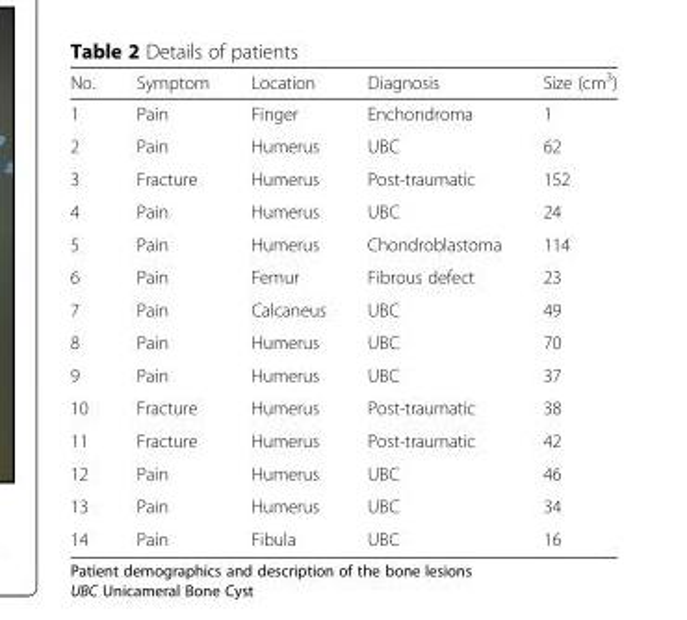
<table><thead><tr><td>No.</td><td>Symptom</td><td>Location</td><td>Diagnosis</td><td>Size (cm<sup>3</sup>)</td></tr></thead><tbody><tr><td>1</td><td>Pain</td><td>Finger</td><td>Enchondroma</td><td>1</td></tr><tr><td>2</td><td>Pain</td><td>Humerus</td><td>UBC</td><td>62</td></tr><tr><td>3</td><td>Fracture</td><td>Humerus</td><td>Post-traumatic</td><td>152</td></tr><tr><td>4</td><td>Pain</td><td>Humerus</td><td>UBC</td><td>24</td></tr><tr><td>5</td><td>Pain</td><td>Humerus</td><td>Chondroblastoma</td><td>114</td></tr><tr><td>6</td><td>Pain</td><td>Femur</td><td>Fibrous defect</td><td>23</td></tr><tr><td>7</td><td>Pain</td><td>Calcaneus</td><td>UBC</td><td>49</td></tr><tr><td>8</td><td>Pain</td><td>Humerus</td><td>UBC</td><td>70</td></tr><tr><td>9</td><td>Pain</td><td>Humerus</td><td>UBC</td><td>37</td></tr><tr><td>10</td><td>Fracture</td><td>Humerus</td><td>Post-traumatic</td><td>38</td></tr><tr><td>11</td><td>Fracture</td><td>Humerus</td><td>Post-traumatic</td><td>42</td></tr><tr><td>12</td><td>Pain</td><td>Humerus</td><td>UBC</td><td>46</td></tr><tr><td>13</td><td>Pain</td><td>Humerus</td><td>UBC</td><td>34</td></tr><tr><td>14</td><td>Pain</td><td>Fibula</td><td>UBC</td><td>16</td></tr></tbody></table>